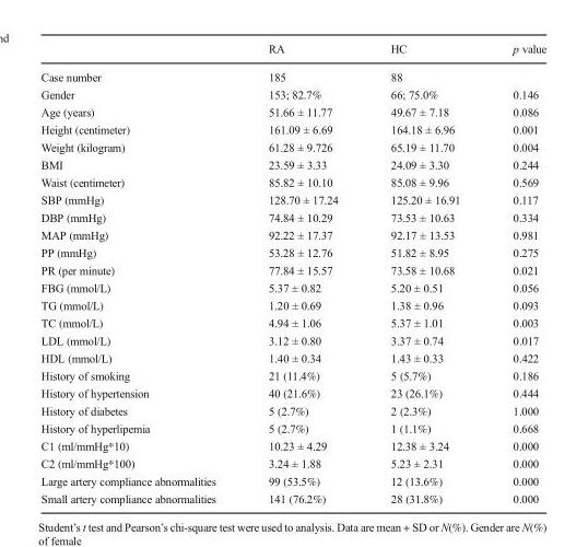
<table><thead><tr><td></td><td>RA</td><td>HC</td><td>p value</td></tr></thead><tbody><tr><td>Case number</td><td>185</td><td>88</td><td></td></tr><tr><td>Gender</td><td>153; 82.7%</td><td>66; 75.0%</td><td>0.146</td></tr><tr><td>Age (years)</td><td>51.66 ± 11.77</td><td>49.67 ± 7.18</td><td>0.086</td></tr><tr><td>Height (centimeter)</td><td>161.09 ± 6.69</td><td>164.18 ± 6.96</td><td>0.001</td></tr><tr><td>Weight (kilogram)</td><td>61.28 ± 9.726</td><td>65.19 ± 11.70</td><td>0.004</td></tr><tr><td>BMI</td><td>23.59 ± 3.33</td><td>24.09 ± 3.30</td><td>0.244</td></tr><tr><td>Waist (centimeter)</td><td>85.82 ± 10.10</td><td>85.08 ± 9.96</td><td>0.569</td></tr><tr><td>SBP (mmHg)</td><td>128.70 ± 17.24</td><td>125.20 ± 16.91</td><td>0.117</td></tr><tr><td>DBP (mmHg)</td><td>74.84 ± 10.29</td><td>73.53 ± 10.63</td><td>0.334</td></tr><tr><td>MAP (mmHg)</td><td>92.22 ± 17.37</td><td>92.17 ± 13.53</td><td>0.981</td></tr><tr><td>PP (mmHg)</td><td>53.28 ± 12.76</td><td>51.82 ± 8.95</td><td>0.275</td></tr><tr><td>PR (per minute)</td><td>77.84 ± 15.57</td><td>73.58 ± 10.68</td><td>0.021</td></tr><tr><td>FBG (mmol/L)</td><td>5.37 ± 0.82</td><td>5.20 ± 0.51</td><td>0.056</td></tr><tr><td>TG (mmol/L)</td><td>1.20 ± 0.69</td><td>1.38 ± 0.96</td><td>0.093</td></tr><tr><td>TC (mmol/L)</td><td>4.94 ± 1.06</td><td>5.37 ± 1.01</td><td>0.003</td></tr><tr><td>LDL (mmol/L)</td><td>3.12 ± 0.80</td><td>3.37 ± 0.74</td><td>0.017</td></tr><tr><td>HDL (mmol/L)</td><td>1.40 ± 0.34</td><td>1.43 ± 0.33</td><td>0.422</td></tr><tr><td>History of smoking</td><td>21 (11.4%)</td><td>5 (5.7%)</td><td>0.186</td></tr><tr><td>History of hypertension</td><td>40 (21.6%)</td><td>23 (26.1%)</td><td>0.444</td></tr><tr><td>History of diabetes</td><td>5 (2.7%)</td><td>2 (2.3%)</td><td>1.000</td></tr><tr><td>History of hyperlipemia</td><td>5 (2.7%)</td><td>1 (1.1%)</td><td>0.668</td></tr><tr><td>C1 (ml/mmHg*10)</td><td>10.23 ± 4.29</td><td>12.38 ± 3.24</td><td>0.000</td></tr><tr><td>C2 (ml/mmHg*100)</td><td>3.24 ± 1.88</td><td>5.23 ± 2.31</td><td>0.000</td></tr><tr><td>Large artery compliance abnormalities</td><td>99 (53.5%)</td><td>12 (13.6%)</td><td>0.000</td></tr><tr><td>Small artery compliance abnormalities</td><td>141 (76.2%)</td><td>28 (31.8%)</td><td>0.000</td></tr></tbody></table>